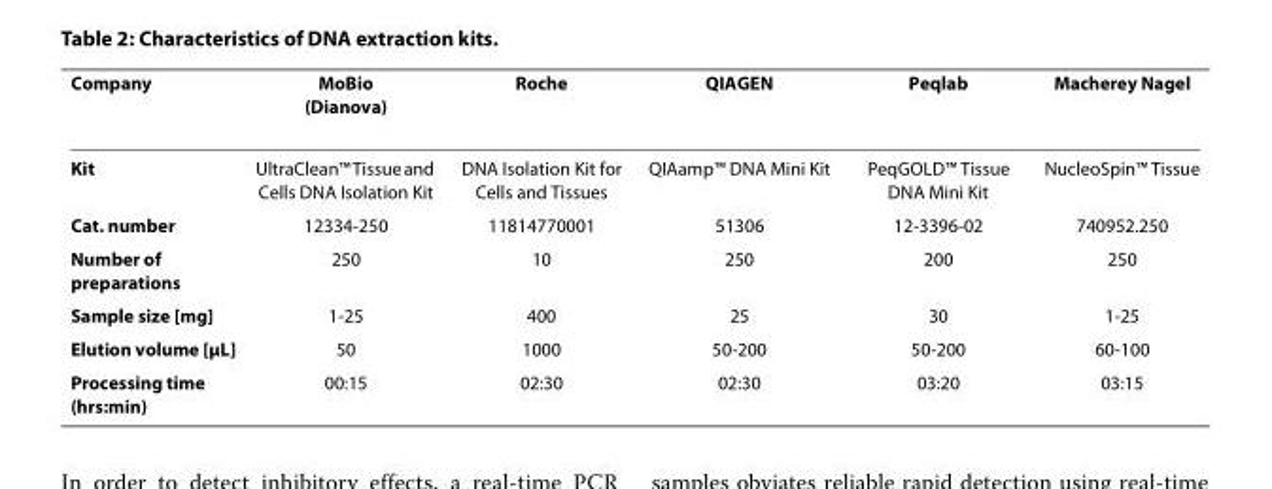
<table><thead><tr><td>Company</td><td>MoBio (Dianova)</td><td>Roche</td><td>QIAGEN</td><td>Peqlab</td><td>Macherey Nagel</td></tr></thead><tbody><tr><td>Kit</td><td>UltraClean™ Tissue and Cells DNA Isolation Kit</td><td>DNA Isolation Kit for Cells and Tissues</td><td>QIAamp™ DNA Mini Kit</td><td>PeqGOLD™ Tissue DNA Mini Kit</td><td>NucleoSpin™ Tissue</td></tr><tr><td>Cat. number</td><td>12334-250</td><td>11814770001</td><td>51306</td><td>12-3396-02</td><td>740952.250</td></tr><tr><td>Number of preparations</td><td>250</td><td>10</td><td>250</td><td>200</td><td>250</td></tr><tr><td>Sample size [mg]</td><td>1-25</td><td>400</td><td>25</td><td>30</td><td>1-25</td></tr><tr><td>Elution volume [μL]</td><td>50</td><td>1000</td><td>50-200</td><td>50-200</td><td>60-100</td></tr><tr><td>Processing time (hrs:min)</td><td>00:15</td><td>02:30</td><td>02:30</td><td>03:20</td><td>03:15</td></tr></tbody></table>